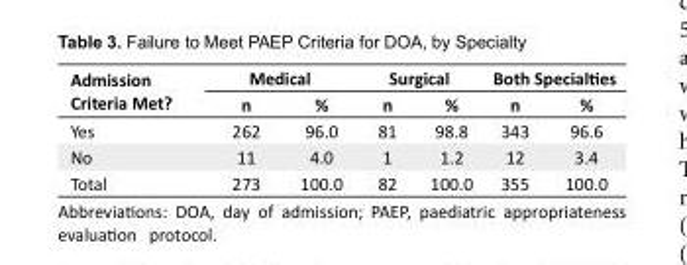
<table><tbody><tr><td rowspan="2">Admission Criteria Met?</td><td colspan="2">Medical</td><td colspan="2">Surgical</td><td colspan="2">Both Specialties</td></tr><tr><td>n</td><td>%</td><td>n</td><td>%</td><td>n</td><td>%</td></tr><tr><td>Yes</td><td>262</td><td>96.0</td><td>81</td><td>98.8</td><td>343</td><td>96.6</td></tr><tr><td>No</td><td>11</td><td>4.0</td><td>1</td><td>1.2</td><td>12</td><td>3.4</td></tr><tr><td>Total</td><td>273</td><td>100.0</td><td>82</td><td>100.0</td><td>355</td><td>100.0</td></tr></tbody></table>